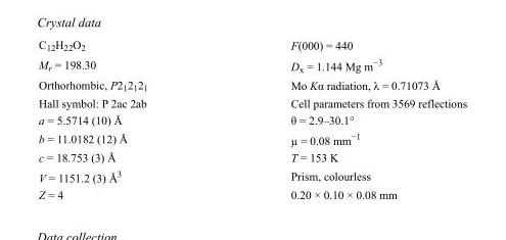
<table><tbody><tr><td>C<sub>12</sub>H<sub>22</sub>O<sub>2</sub></td><td>F(000) = 440</td></tr><tr><td>M<sub>r</sub> = 198.30</td><td>D<sub>x</sub> = 1.144 Mg m<sup>−3</sup></td></tr><tr><td>Orthorhombic, P2<sub>1</sub>2<sub>1</sub>2<sub>1</sub></td><td>Mo Kα radiation, λ = 0.71073 Å</td></tr><tr><td>Hall symbol: P 2ac 2ab</td><td>Cell parameters from 3569 reflections</td></tr><tr><td>a = 5.5714 (10) Å</td><td>θ = 2.9–30.1°</td></tr><tr><td>b = 11.0182 (12) Å</td><td>µ = 0.08 mm<sup>−1</sup></td></tr><tr><td>c = 18.753 (3) Å</td><td>T = 153 K</td></tr><tr><td>V = 1151.2 (3) Å<sup>3</sup></td><td>Prism, colourless</td></tr><tr><td>Z = 4</td><td>0.20 × 0.10 × 0.08 mm</td></tr></tbody></table>